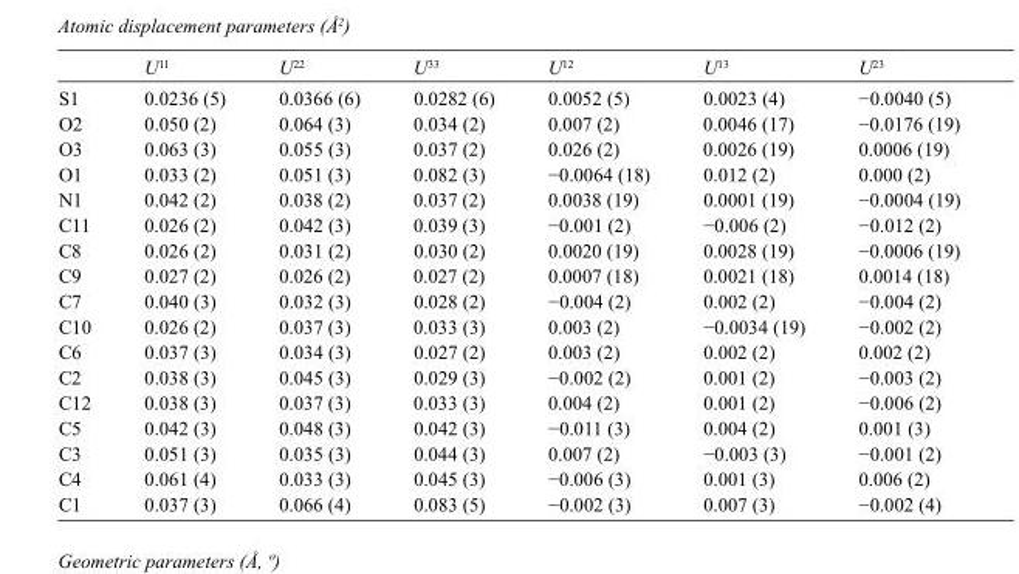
<table><thead><tr><td></td><td>U<sup>11</sup></td><td>U<sup>22</sup></td><td>U<sup>33</sup></td><td>U<sup>12</sup></td><td>U<sup>13</sup></td><td>U<sup>23</sup></td></tr></thead><tbody><tr><td>S1</td><td>0.0236 (5)</td><td>0.0366 (6)</td><td>0.0282 (6)</td><td>0.0052 (5)</td><td>0.0023 (4)</td><td>−0.0040 (5)</td></tr><tr><td>O2</td><td>0.050 (2)</td><td>0.064 (3)</td><td>0.034 (2)</td><td>0.007 (2)</td><td>0.0046 (17)</td><td>−0.0176 (19)</td></tr><tr><td>O3</td><td>0.063 (3)</td><td>0.055 (3)</td><td>0.037 (2)</td><td>0.026 (2)</td><td>0.0026 (19)</td><td>0.0006 (19)</td></tr><tr><td>O1</td><td>0.033 (2)</td><td>0.051 (3)</td><td>0.082 (3)</td><td>−0.0064 (18)</td><td>0.012 (2)</td><td>0.000 (2)</td></tr><tr><td>N1</td><td>0.042 (2)</td><td>0.038 (2)</td><td>0.037 (2)</td><td>0.0038 (19)</td><td>0.0001 (19)</td><td>−0.0004 (19)</td></tr><tr><td>C11</td><td>0.026 (2)</td><td>0.042 (3)</td><td>0.039 (3)</td><td>−0.001 (2)</td><td>−0.006 (2)</td><td>−0.012 (2)</td></tr><tr><td>C8</td><td>0.026 (2)</td><td>0.031 (2)</td><td>0.030 (2)</td><td>0.0020 (19)</td><td>0.0028 (19)</td><td>−0.0006 (19)</td></tr><tr><td>C9</td><td>0.027 (2)</td><td>0.026 (2)</td><td>0.027 (2)</td><td>0.0007 (18)</td><td>0.0021 (18)</td><td>0.0014 (18)</td></tr><tr><td>C7</td><td>0.040 (3)</td><td>0.032 (3)</td><td>0.028 (2)</td><td>−0.004 (2)</td><td>0.002 (2)</td><td>−0.004 (2)</td></tr><tr><td>C10</td><td>0.026 (2)</td><td>0.037 (3)</td><td>0.033 (3)</td><td>0.003 (2)</td><td>−0.0034 (19)</td><td>−0.002 (2)</td></tr><tr><td>C6</td><td>0.037 (3)</td><td>0.034 (3)</td><td>0.027 (2)</td><td>0.003 (2)</td><td>0.002 (2)</td><td>0.002 (2)</td></tr><tr><td>C2</td><td>0.038 (3)</td><td>0.045 (3)</td><td>0.029 (3)</td><td>−0.002 (2)</td><td>0.001 (2)</td><td>−0.003 (2)</td></tr><tr><td>C12</td><td>0.038 (3)</td><td>0.037 (3)</td><td>0.033 (3)</td><td>0.004 (2)</td><td>0.001 (2)</td><td>−0.006 (2)</td></tr><tr><td>C5</td><td>0.042 (3)</td><td>0.048 (3)</td><td>0.042 (3)</td><td>−0.011 (3)</td><td>0.004 (2)</td><td>0.001 (3)</td></tr><tr><td>C3</td><td>0.051 (3)</td><td>0.035 (3)</td><td>0.044 (3)</td><td>0.007 (2)</td><td>−0.003 (3)</td><td>−0.001 (2)</td></tr><tr><td>C4</td><td>0.061 (4)</td><td>0.033 (3)</td><td>0.045 (3)</td><td>−0.006 (3)</td><td>0.001 (3)</td><td>0.006 (2)</td></tr><tr><td>C1</td><td>0.037 (3)</td><td>0.066 (4)</td><td>0.083 (5)</td><td>−0.002 (3)</td><td>0.007 (3)</td><td>−0.002 (4)</td></tr></tbody></table>